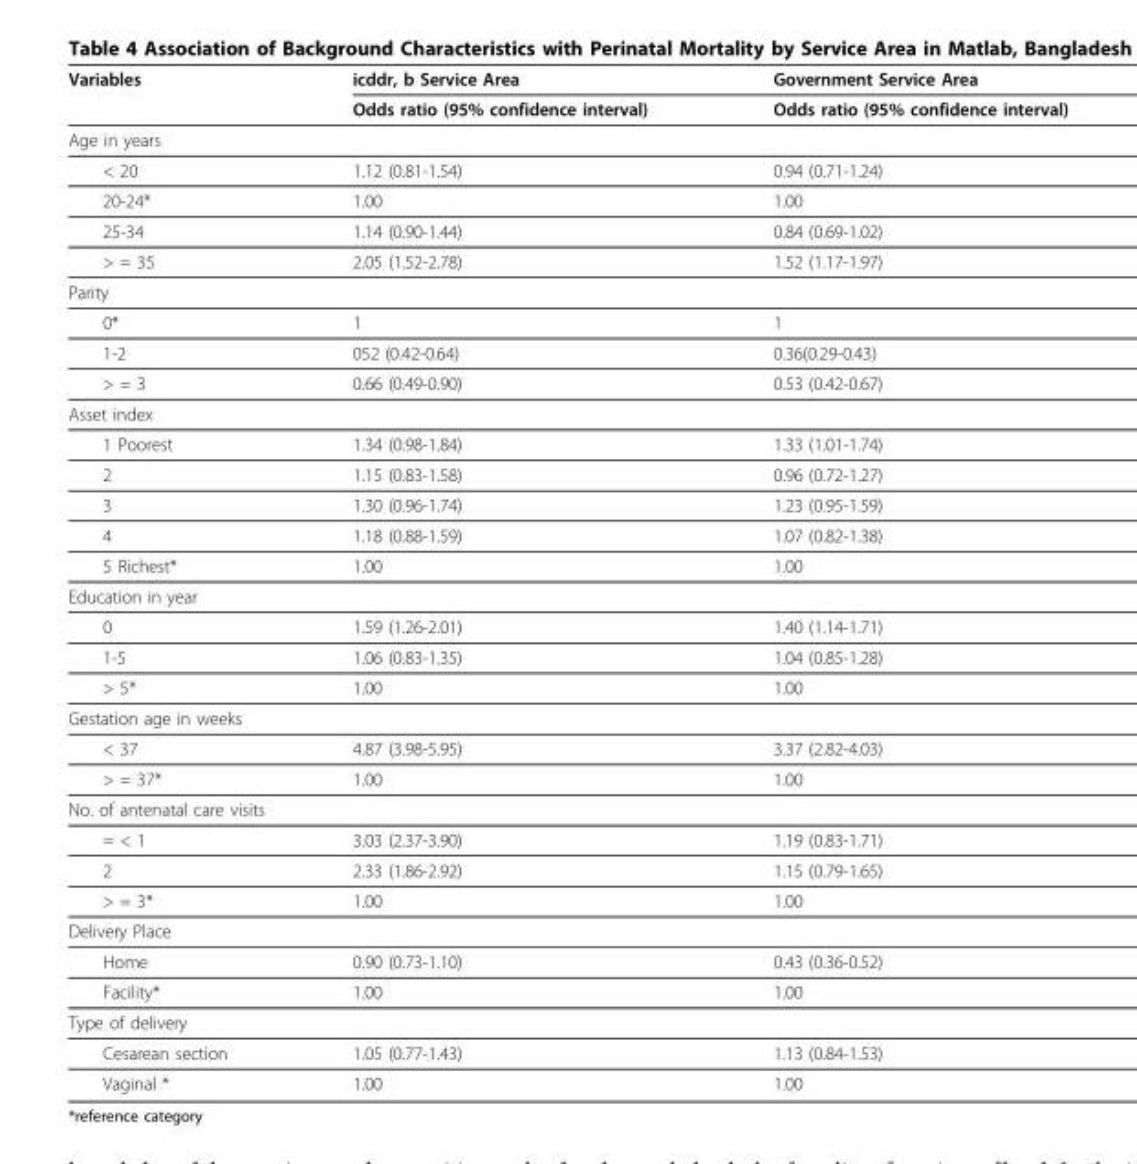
<table><thead><tr><td rowspan="2">Variables</td><td rowspan="2">icddr, b Service Area Odds ratio (95% confidence interval)</td><td rowspan="2">Government Service Area Odds ratio (95% confidence interval)</td></tr><tr></tr></thead><tbody><tr><td colspan="3">Age in years</td></tr><tr><td>&lt; 20</td><td>1.12 (0.81-1.54)</td><td>0.94 (0.71-1.24)</td></tr><tr><td>20-24*</td><td>1.00</td><td>1.00</td></tr><tr><td>25-34</td><td>1.14 (0.90-1.44)</td><td>0.84 (0.69-1.02)</td></tr><tr><td>&gt; = 35</td><td>2.05 (1.52-2.78)</td><td>1.52 (1.17-1.97)</td></tr><tr><td colspan="3">Parity</td></tr><tr><td>0*</td><td>1</td><td>1</td></tr><tr><td>1-2</td><td>052 (0.42-0.64)</td><td>0.36(0.29-0.43)</td></tr><tr><td>&gt; = 3</td><td>0.66 (0.49-0.90)</td><td>0.53 (0.42-0.67)</td></tr><tr><td colspan="3">Asset index</td></tr><tr><td>1 Poorest</td><td>1.34 (0.98-1.84)</td><td>1.33 (1.01-1.74)</td></tr><tr><td>2</td><td>1.15 (0.83-1.58)</td><td>0.96 (0.72-1.27)</td></tr><tr><td>3</td><td>1.30 (0.96-1.74)</td><td>1.23 (0.95-1.59)</td></tr><tr><td>4</td><td>1.18 (0.88-1.59)</td><td>1.07 (0.82-1.38)</td></tr><tr><td>5 Richest*</td><td>1.00</td><td>1.00</td></tr><tr><td colspan="3">Education in year</td></tr><tr><td>0</td><td>1.59 (1.26-2.01)</td><td>1.40 (1.14-1.71)</td></tr><tr><td>1-5</td><td>1.06 (0.83-1.35)</td><td>1.04 (0.85-1.28)</td></tr><tr><td>&gt; 5*</td><td>1.00</td><td>1.00</td></tr><tr><td colspan="3">Gestation age in weeks</td></tr><tr><td>&lt; 37</td><td>4.87 (3.98-5.95)</td><td>3.37 (2.82-4.03)</td></tr><tr><td>&gt; = 37*</td><td>1.00</td><td>1.00</td></tr><tr><td colspan="3">No. of antenatal care visits</td></tr><tr><td>= &lt; 1</td><td>3.03 (2.37-3.90)</td><td>1.19 (0.83-1.71)</td></tr><tr><td>2</td><td>2.33 (1.86-2.92)</td><td>1.15 (0.79-1.65)</td></tr><tr><td>&gt; = 3*</td><td>1.00</td><td>1.00</td></tr><tr><td colspan="3">Delivery Place</td></tr><tr><td>Home</td><td>0.90 (0.73-1.10)</td><td>0.43 (0.36-0.52)</td></tr><tr><td>Facility*</td><td>1.00</td><td>1.00</td></tr><tr><td colspan="3">Type of delivery</td></tr><tr><td>Cesarean section</td><td>1.05 (0.77-1.43)</td><td>1.13 (0.84-1.53)</td></tr><tr><td>Vaginal *</td><td>1.00</td><td>1.00</td></tr></tbody></table>